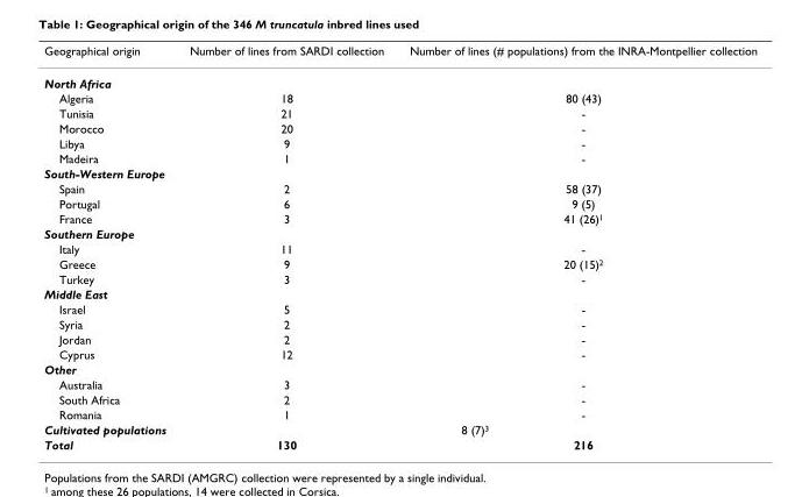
<table><thead><tr><td>Geographical origin</td><td>Number of lines from SARDI collection</td><td>Number of lines (# populations) from the INRA-Montpellier collection</td></tr></thead><tbody><tr><td colspan="3">North Africa</td></tr><tr><td>Algeria</td><td>18</td><td>80 (43)</td></tr><tr><td>Tunisia</td><td>21</td><td>-</td></tr><tr><td>Morocco</td><td>20</td><td>-</td></tr><tr><td>Libya</td><td>9</td><td>-</td></tr><tr><td>Madeira</td><td>1</td><td>-</td></tr><tr><td colspan="3">South-Western Europe</td></tr><tr><td>Spain</td><td>2</td><td>58 (37)</td></tr><tr><td>Portugal</td><td>6</td><td>9 (5)</td></tr><tr><td>France</td><td>3</td><td>41 (26)1</td></tr><tr><td colspan="3">Southern Europe</td></tr><tr><td>Italy</td><td>11</td><td>-</td></tr><tr><td>Greece</td><td>9</td><td>20 (15)2</td></tr><tr><td>Turkey</td><td>3</td><td>-</td></tr><tr><td colspan="3">Middle East</td></tr><tr><td>Israel</td><td>5</td><td>-</td></tr><tr><td>Syria</td><td>2</td><td>-</td></tr><tr><td>Jordan</td><td>2</td><td>-</td></tr><tr><td>Cyprus</td><td>12</td><td>-</td></tr><tr><td colspan="3">Other</td></tr><tr><td>Australia</td><td>3</td><td>-</td></tr><tr><td>South Africa</td><td>2</td><td>-</td></tr><tr><td>Romania</td><td>1</td><td>-</td></tr><tr><td>Cultivated populations</td><td colspan="2">8 (7)3</td></tr><tr><td>Total</td><td>130</td><td>216</td></tr></tbody></table>